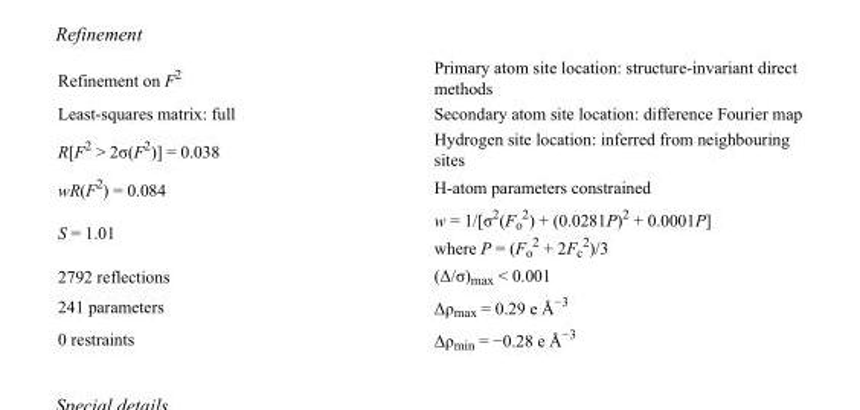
<table><tbody><tr><td>Refinement on F<sup>2</sup></td><td>Primary atom site location: structure-invariant direct methods</td></tr><tr><td>Least-squares matrix: full</td><td>Secondary atom site location: difference Fourier map</td></tr><tr><td>R[F<sup>2</sup> &gt; 2σ(F<sup>2</sup>)] = 0.038</td><td>Hydrogen site location: inferred from neighbouring sites</td></tr><tr><td>wR(F<sup>2</sup>) = 0.084</td><td>H-atom parameters constrained</td></tr><tr><td>S = 1.01</td><td>w = 1/[σ<sup>2</sup>(F<sub>o</sub> <sup>2</sup>) + (0.0281P)<sup>2</sup> + 0.0001P] where P = (F<sub>o</sub> <sup>2</sup> + 2F<sub>c</sub> <sup>2</sup>)/3</td></tr><tr><td>2792 reflections</td><td>(Δ/σ)<sub>max</sub> &lt; 0.001</td></tr><tr><td>241 parameters</td><td>Δρ<sub>max</sub> = 0.29 e Å<sup>−3</sup></td></tr><tr><td>0 restraints</td><td>Δρ<sub>min</sub> = −0.28 e Å<sup>−3</sup></td></tr></tbody></table>